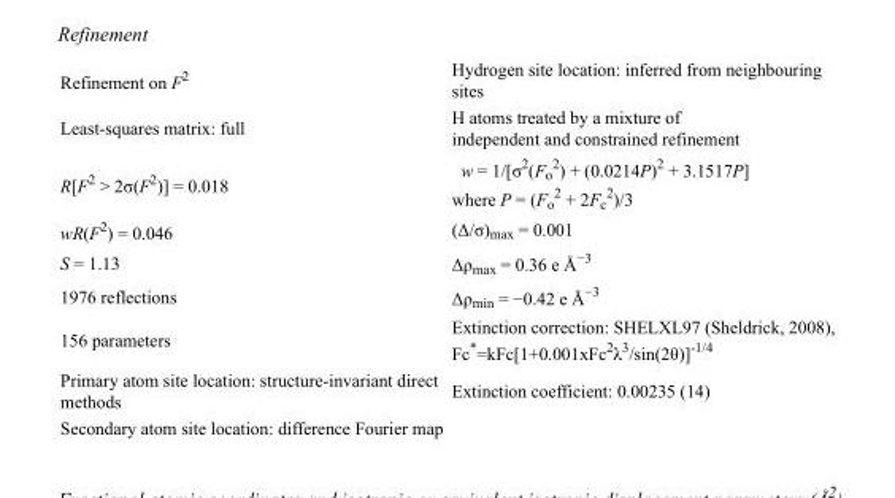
<table><tbody><tr><td>Refinement on F<sup>2</sup></td><td>Hydrogen site location: inferred from neighbouring sites</td></tr><tr><td>Least-squares matrix: full</td><td>H atoms treated by a mixture of independent and constrained refinement</td></tr><tr><td>R[F<sup>2</sup> &gt; 2σ(F<sup>2</sup>)] = 0.018</td><td>w = 1/[σ<sup>2</sup>(F<sub>o</sub> <sup>2</sup>) + (0.0214P)<sup>2</sup> + 3.1517P] where P = (F<sub>o</sub> <sup>2</sup> + 2F<sub>c</sub> <sup>2</sup>)/3</td></tr><tr><td>wR(F<sup>2</sup>) = 0.046</td><td>(Δ/σ)<sub>max</sub> = 0.001</td></tr><tr><td>S = 1.13</td><td>Δρ<sub>max</sub> = 0.36 e Å<sup>−3</sup></td></tr><tr><td>1976 reflections</td><td>Δρ<sub>min</sub> = −0.42 e Å<sup>−3</sup></td></tr><tr><td>156 parameters</td><td>Extinction correction: SHELXL97 (Sheldrick, 2008), Fc*=kFc[1+0.001xFc<sup>2</sup>λ<sup>3</sup>/sin(2θ)]<sup>-1/4</sup></td></tr><tr><td>Primary atom site location: structure-invariant direct methods</td><td>Extinction coefficient: 0.00235 (14)</td></tr><tr><td>Secondary atom site location: difference Fourier map</td><td></td></tr></tbody></table>